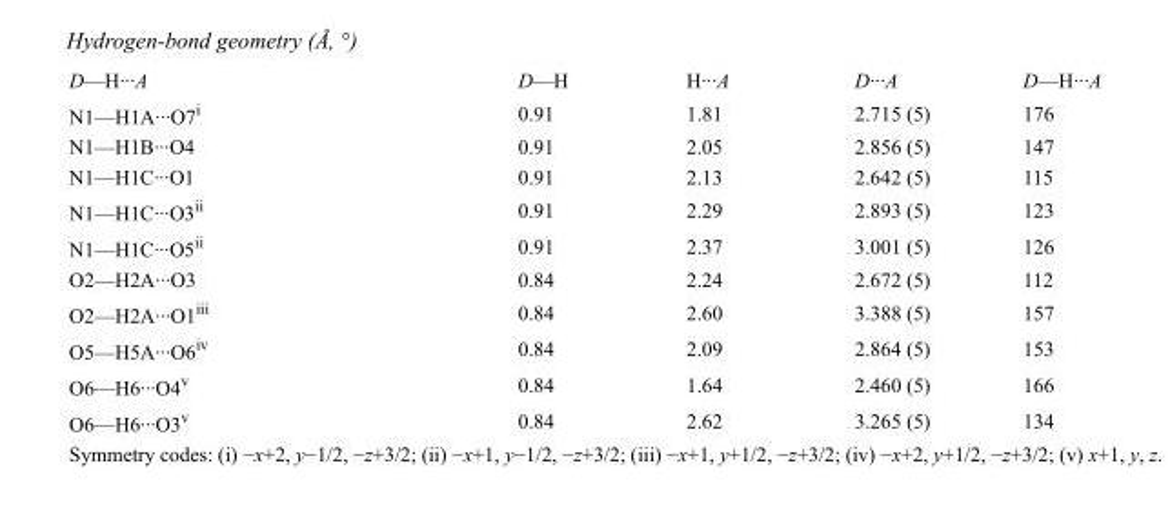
<table><tbody><tr><td>D—H···A</td><td>D—H</td><td>H···A</td><td>D···A</td><td>D—H···A</td></tr><tr><td>N1—H1A···O7<sup>i</sup></td><td>0.91</td><td>1.81</td><td>2.715 (5)</td><td>176</td></tr><tr><td>N1—H1B···O4</td><td>0.91</td><td>2.05</td><td>2.856 (5)</td><td>147</td></tr><tr><td>N1—H1C···O1</td><td>0.91</td><td>2.13</td><td>2.642 (5)</td><td>115</td></tr><tr><td>N1—H1C···O3<sup>ii</sup></td><td>0.91</td><td>2.29</td><td>2.893 (5)</td><td>123</td></tr><tr><td>N1—H1C···O5<sup>ii</sup></td><td>0.91</td><td>2.37</td><td>3.001 (5)</td><td>126</td></tr><tr><td>O2—H2A···O3</td><td>0.84</td><td>2.24</td><td>2.672 (5)</td><td>112</td></tr><tr><td>O2—H2A···O1<sup>iii</sup></td><td>0.84</td><td>2.60</td><td>3.388 (5)</td><td>157</td></tr><tr><td>O5—H5A···O6<sup>iv</sup></td><td>0.84</td><td>2.09</td><td>2.864 (5)</td><td>153</td></tr><tr><td>O6—H6···O4<sup>v</sup></td><td>0.84</td><td>1.64</td><td>2.460 (5)</td><td>166</td></tr><tr><td>O6—H6···O3<sup>v</sup></td><td>0.84</td><td>2.62</td><td>3.265 (5)</td><td>134</td></tr></tbody></table>